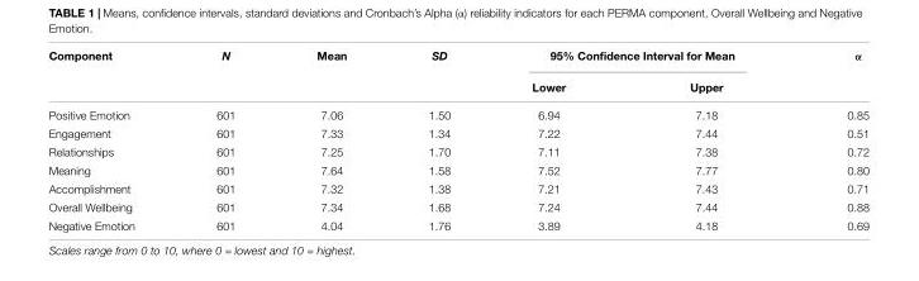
<table><thead><tr><td rowspan="2">Component</td><td rowspan="2">N</td><td rowspan="2">Mean</td><td rowspan="2">SD</td><td colspan="2">95% Confidence Interval for Mean</td><td rowspan="2">α</td></tr><tr><td>Lower</td><td>Upper</td></tr></thead><tbody><tr><td>Positive Emotion</td><td>601</td><td>7.06</td><td>1.50</td><td>6.94</td><td>7.18</td><td>0.85</td></tr><tr><td>Engagement</td><td>601</td><td>7.33</td><td>1.34</td><td>7.22</td><td>7.44</td><td>0.51</td></tr><tr><td>Relationships</td><td>601</td><td>7.25</td><td>1.70</td><td>7.11</td><td>7.38</td><td>0.72</td></tr><tr><td>Meaning</td><td>601</td><td>7.64</td><td>1.58</td><td>7.52</td><td>7.77</td><td>0.80</td></tr><tr><td>Accomplishment</td><td>601</td><td>7.32</td><td>1.38</td><td>7.21</td><td>7.43</td><td>0.71</td></tr><tr><td>Overall Wellbeing</td><td>601</td><td>7.34</td><td>1.68</td><td>7.24</td><td>7.44</td><td>0.88</td></tr><tr><td>Negative Emotion</td><td>601</td><td>4.04</td><td>1.76</td><td>3.89</td><td>4.18</td><td>0.69</td></tr></tbody></table>